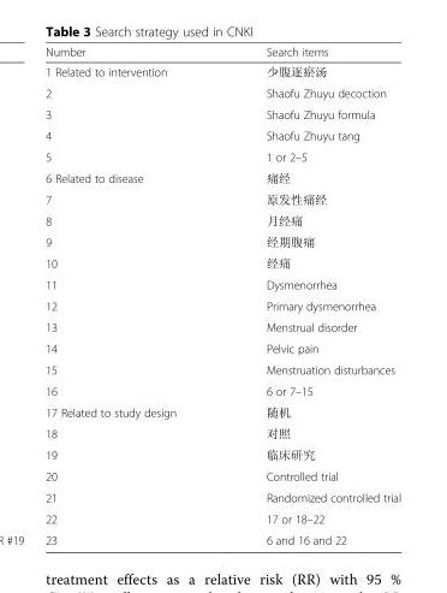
<table><thead><tr><td>Number</td><td>Search items</td></tr></thead><tbody><tr><td>1 Related to intervention</td><td>少腹逐瘀汤</td></tr><tr><td>2</td><td>Shaofu Zhuyu decoction</td></tr><tr><td>3</td><td>Shaofu Zhuyu formula</td></tr><tr><td>4</td><td>Shaofu Zhuyu tang</td></tr><tr><td>5</td><td>1 or 2–5</td></tr><tr><td>6 Related to disease</td><td>痛经</td></tr><tr><td>7</td><td>原发性痛经</td></tr><tr><td>8</td><td>月经痛</td></tr><tr><td>9</td><td>经期腹痛</td></tr><tr><td>10</td><td>经痛</td></tr><tr><td>11</td><td>Dysmenorrhea</td></tr><tr><td>12</td><td>Primary dysmenorrhea</td></tr><tr><td>13</td><td>Menstrual disorder</td></tr><tr><td>14</td><td>Pelvic pain</td></tr><tr><td>15</td><td>Menstruation disturbances</td></tr><tr><td>16</td><td>6 or 7–15</td></tr><tr><td>17 Related to study design</td><td>随机</td></tr><tr><td>18</td><td>对照</td></tr><tr><td>19</td><td>临床研究</td></tr><tr><td>20</td><td>Controlled trial</td></tr><tr><td>21</td><td>Randomized controlled trial</td></tr><tr><td>22</td><td>17 or 18–22</td></tr><tr><td>23</td><td>6 and 16 and 22</td></tr></tbody></table>